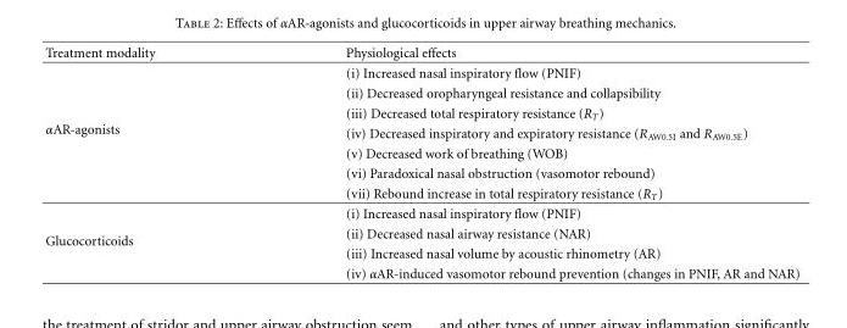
<table><thead><tr><td>Treatment modality</td><td>Physiological effects</td></tr></thead><tbody><tr><td rowspan="7">αAR-agonists</td><td>(i) Increased nasal inspiratory flow (PNIF)</td></tr><tr><td>(ii) Decreased oropharyngeal resistance and collapsibility</td></tr><tr><td>(iii) Decreased total respiratory resistance (R<sub>T</sub>)</td></tr><tr><td>(iv) Decreased inspiratory and expiratory resistance (R<sub>AW0.5I</sub> and R<sub>AW0.5E</sub>)</td></tr><tr><td>(v) Decreased work of breathing (WOB)</td></tr><tr><td>(vi) Paradoxical nasal obstruction (vasomotor rebound)</td></tr><tr><td>(vii) Rebound increase in total respiratory resistance (R<sub>T</sub>)</td></tr><tr><td rowspan="4">Glucocorticoids</td><td>(i) Increased nasal inspiratory flow (PNIF)</td></tr><tr><td>(ii) Decreased nasal airway resistance (NAR)</td></tr><tr><td>(iii) Increased nasal volume by acoustic rhinometry (AR)</td></tr><tr><td>(iv) αAR-induced vasomotor rebound prevention (changes in PNIF, AR and NAR)</td></tr></tbody></table>